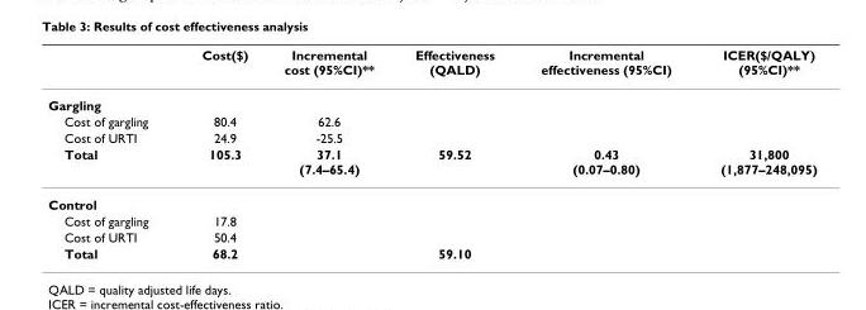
<table><thead><tr><td></td><td>Cost($)</td><td>Incremental cost (95%CI)**</td><td>Effectiveness (QALD)</td><td>Incremental effectiveness (95%CI)</td><td>ICER($/QALY) (95%CI)**</td></tr></thead><tbody><tr><td colspan="6">Gargling</td></tr><tr><td>Cost of gargling</td><td>80.4</td><td>62.6</td><td></td><td></td><td></td></tr><tr><td>Cost of URTI</td><td>24.9</td><td>-25.5</td><td></td><td></td><td></td></tr><tr><td>Total</td><td>105.3</td><td>37.1 (7.4–65.4)</td><td>59.52</td><td>0.43 (0.07–0.80)</td><td>31,800 (1,877–248,095)</td></tr><tr><td colspan="6">Control</td></tr><tr><td>Cost of gargling</td><td>17.8</td><td></td><td></td><td></td><td></td></tr><tr><td>Cost of URTI</td><td>50.4</td><td></td><td></td><td></td><td></td></tr><tr><td>Total</td><td>68.2</td><td></td><td>59.10</td><td></td><td></td></tr></tbody></table>